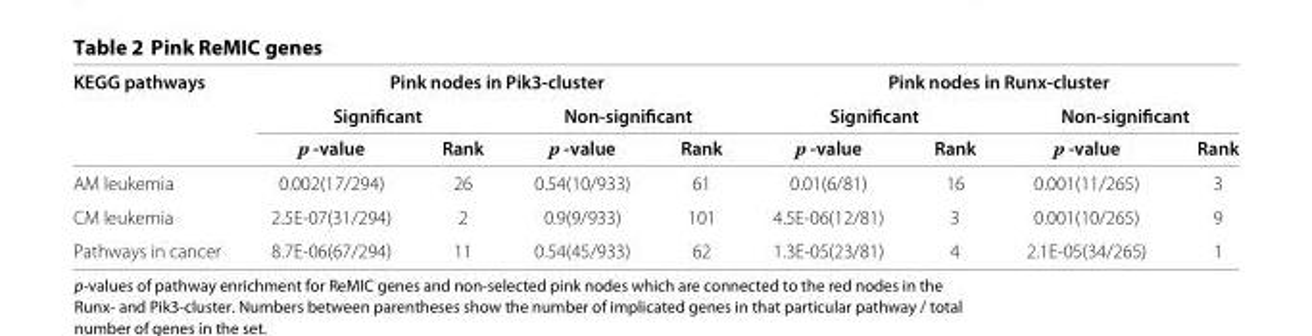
<table><thead><tr><td rowspan="3">KEGG pathways</td><td colspan="4">Pink nodes in Pik3-cluster</td><td colspan="4">Pink nodes in Runx-cluster</td></tr><tr><td colspan="2">Significant</td><td colspan="2">Non-significant</td><td colspan="2">Significant</td><td colspan="2">Non-significant</td></tr><tr><td>p -value</td><td>Rank</td><td>p -value</td><td>Rank</td><td>p -value</td><td>Rank</td><td>p -value</td><td>Rank</td></tr></thead><tbody><tr><td>AM leukemia</td><td>0.002(17/294)</td><td>26</td><td>0.54(10/933)</td><td>61</td><td>0.01(6/81)</td><td>16</td><td>0.001(11/265)</td><td>3</td></tr><tr><td>CM leukemia</td><td>2.5E-07(31/294)</td><td>2</td><td>0.9(9/933)</td><td>101</td><td>4.5E-06(12/81)</td><td>3</td><td>0.001(10/265)</td><td>9</td></tr><tr><td>Pathways in cancer</td><td>8.7E-06(67/294)</td><td>11</td><td>0.54(45/933)</td><td>62</td><td>1.3E-05(23/81)</td><td>4</td><td>2.1E-05(34/265)</td><td>1</td></tr></tbody></table>